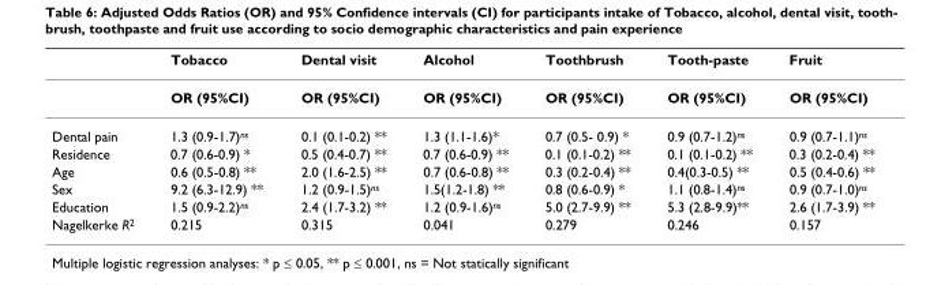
<table><thead><tr><td></td><td>Tobacco</td><td>Dental visit</td><td>Alcohol</td><td>Toothbrush</td><td>Tooth-paste</td><td>Fruit</td></tr></thead><tbody><tr><td></td><td>OR (95%CI)</td><td>OR (95%CI)</td><td>OR (95%CI)</td><td>OR (95%CI)</td><td>OR (95%CI)</td><td>OR (95%CI)</td></tr><tr><td>Dental pain</td><td>1.3 (0.9-1.7)<sup>ns</sup></td><td>0.1 (0.1-0.2) **</td><td>1.3 (1.1-1.6)*</td><td>0.7 (0.5- 0.9) *</td><td>0.9 (0.7-1.2)<sup>ns</sup></td><td>0.9 (0.7-1.1)<sup>ns</sup></td></tr><tr><td>Residence</td><td>0.7 (0.6-0.9) *</td><td>0.5 (0.4-0.7) **</td><td>0.7 (0.6-0.9) **</td><td>0.1 (0.1-0.2) **</td><td>0.1 (0.1-0.2) **</td><td>0.3 (0.2-0.4) **</td></tr><tr><td>Age</td><td>0.6 (0.5-0.8) **</td><td>2.0 (1.6-2.5) **</td><td>0.7 (0.6-0.8) **</td><td>0.3 (0.2-0.4) **</td><td>0.4(0.3-0.5) **</td><td>0.5 (0.4-0.6) **</td></tr><tr><td>Sex</td><td>9.2 (6.3-12.9) **</td><td>1.2 (0.9-1.5)<sup>ns</sup></td><td>1.5(1.2-1.8) **</td><td>0.8 (0.6-0.9) *</td><td>1.1 (0.8-1.4)<sup>ns</sup></td><td>0.9 (0.7-1.0)<sup>ns</sup></td></tr><tr><td>Education</td><td>1.5 (0.9-2.2)<sup>ns</sup></td><td>2.4 (1.7-3.2) **</td><td>1.2 (0.9-1.6)<sup>ns</sup></td><td>5.0 (2.7-9.9) **</td><td>5.3 (2.8-9.9)**</td><td>2.6 (1.7-3.9) **</td></tr><tr><td>Nagelkerke R<sup>2</sup></td><td>0.215</td><td>0.315</td><td>0.041</td><td>0.279</td><td>0.246</td><td>0.157</td></tr></tbody></table>